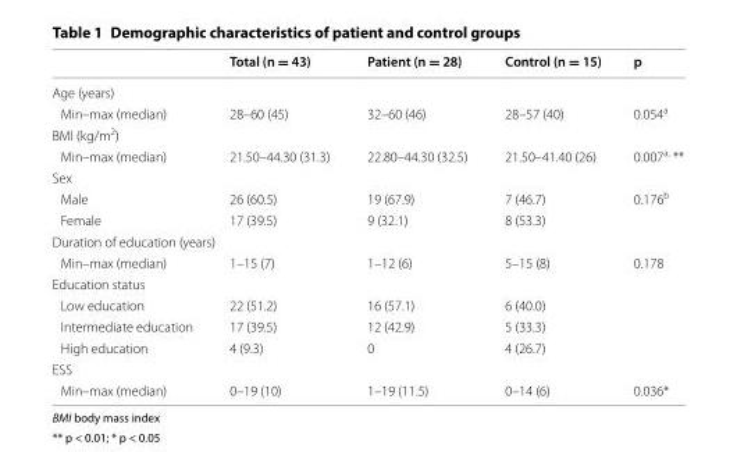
<table><thead><tr><td></td><td>Total (n = 43)</td><td>Patient (n = 28)</td><td>Control (n = 15)</td><td>p</td></tr></thead><tbody><tr><td colspan="5">Age (years)</td></tr><tr><td>Min–max (median)</td><td>28–60 (45)</td><td>32–60 (46)</td><td>28–57 (40)</td><td>0.054<sup>a</sup></td></tr><tr><td colspan="5">BMI (kg/m<sup>2</sup>)</td></tr><tr><td>Min–max (median)</td><td>21.50–44.30 (31.3)</td><td>22.80–44.30 (32.5)</td><td>21.50–41.40 (26)</td><td>0.007<sup>a,</sup> **</td></tr><tr><td colspan="5">Sex</td></tr><tr><td>Male</td><td>26 (60.5)</td><td>19 (67.9)</td><td>7 (46.7)</td><td rowspan="2">0.176<sup>b</sup></td></tr><tr><td>Female</td><td>17 (39.5)</td><td>9 (32.1)</td><td>8 (53.3)</td></tr><tr><td colspan="5">Duration of education (years)</td></tr><tr><td>Min–max (median)</td><td>1–15 (7)</td><td>1–12 (6)</td><td>5–15 (8)</td><td>0.178</td></tr><tr><td colspan="5">Education status</td></tr><tr><td>Low education</td><td>22 (51.2)</td><td>16 (57.1)</td><td>6 (40.0)</td><td></td></tr><tr><td>Intermediate education</td><td>17 (39.5)</td><td>12 (42.9)</td><td>5 (33.3)</td><td></td></tr><tr><td>High education</td><td>4 (9.3)</td><td>0</td><td>4 (26.7)</td><td></td></tr><tr><td colspan="5">ESS</td></tr><tr><td>Min–max (median)</td><td>0–19 (10)</td><td>1–19 (11.5)</td><td>0–14 (6)</td><td>0.036*</td></tr></tbody></table>